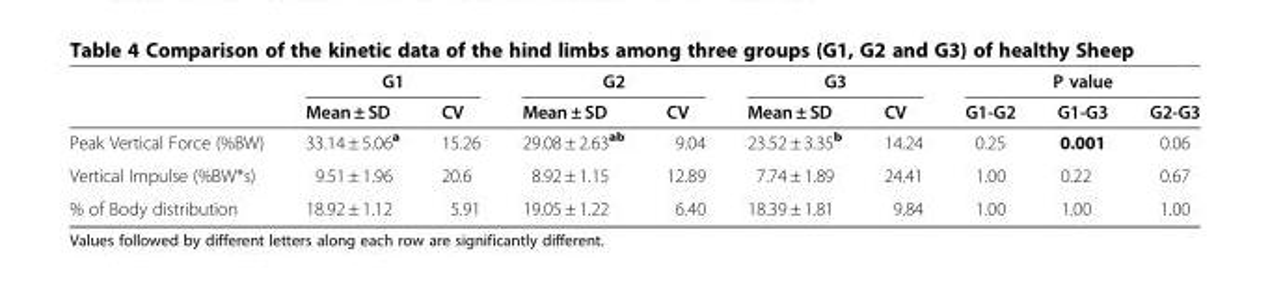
<table><thead><tr><td rowspan="2"></td><td colspan="2">G1</td><td colspan="2">G2</td><td colspan="2">G3</td><td colspan="3">P value</td></tr><tr><td>Mean ± SD</td><td>CV</td><td>Mean ± SD</td><td>CV</td><td>Mean ± SD</td><td>CV</td><td>G1-G2</td><td>G1-G3</td><td>G2-G3</td></tr></thead><tbody><tr><td>Peak Vertical Force (%BW)</td><td>33.14 ± 5.06<sup>a</sup></td><td>15.26</td><td>29.08 ± 2.63<sup>ab</sup></td><td>9.04</td><td>23.52 ± 3.35<sup>b</sup></td><td>14.24</td><td>0.25</td><td>0.001</td><td>0.06</td></tr><tr><td>Vertical Impulse (%BW*s)</td><td>9.51 ± 1.96</td><td>20.6</td><td>8.92 ± 1.15</td><td>12.89</td><td>7.74 ± 1.89</td><td>24.41</td><td>1.00</td><td>0.22</td><td>0.67</td></tr><tr><td>% of Body distribution</td><td>18.92 ± 1.12</td><td>5.91</td><td>19.05 ± 1.22</td><td>6.40</td><td>18.39 ± 1.81</td><td>9.84</td><td>1.00</td><td>1.00</td><td>1.00</td></tr></tbody></table>